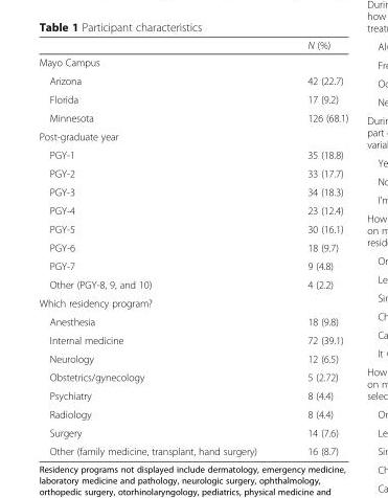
<table><thead><tr><td></td><td>N (%)</td></tr></thead><tbody><tr><td colspan="2">Mayo Campus</td></tr><tr><td>Arizona</td><td>42 (22.7)</td></tr><tr><td>Florida</td><td>17 (9.2)</td></tr><tr><td>Minnesota</td><td>126 (68.1)</td></tr><tr><td colspan="2">Post-graduate year</td></tr><tr><td>PGY-1</td><td>35 (18.8)</td></tr><tr><td>PGY-2</td><td>33 (17.7)</td></tr><tr><td>PGY-3</td><td>34 (18.3)</td></tr><tr><td>PGY-4</td><td>23 (12.4)</td></tr><tr><td>PGY-5</td><td>30 (16.1)</td></tr><tr><td>PGY-6</td><td>18 (9.7)</td></tr><tr><td>PGY-7</td><td>9 (4.8)</td></tr><tr><td>Other (PGY-8, 9, and 10)</td><td>4 (2.2)</td></tr><tr><td colspan="2">Which residency program?</td></tr><tr><td>Anesthesia</td><td>18 (9.8)</td></tr><tr><td>Internal medicine</td><td>72 (39.1)</td></tr><tr><td>Neurology</td><td>12 (6.5)</td></tr><tr><td>Obstetrics/gynecology</td><td>5 (2.72)</td></tr><tr><td>Psychiatry</td><td>8 (4.4)</td></tr><tr><td>Radiology</td><td>8 (4.4)</td></tr><tr><td>Surgery</td><td>14 (7.6)</td></tr><tr><td>Other (family medicine, transplant, hand surgery)</td><td>16 (8.7)</td></tr></tbody></table>